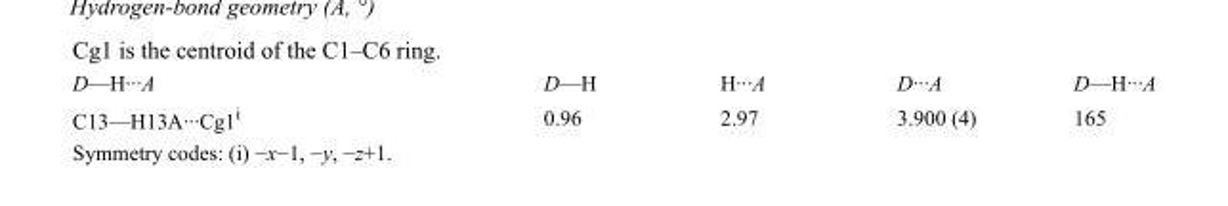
<table><tbody><tr><td>D—H···A</td><td>D—H</td><td>H···A</td><td>D···A</td><td>D—H···A</td></tr><tr><td>C13—H13A···Cg1<sup>i</sup></td><td>0.96</td><td>2.97</td><td>3.900 (4)</td><td>165</td></tr></tbody></table>